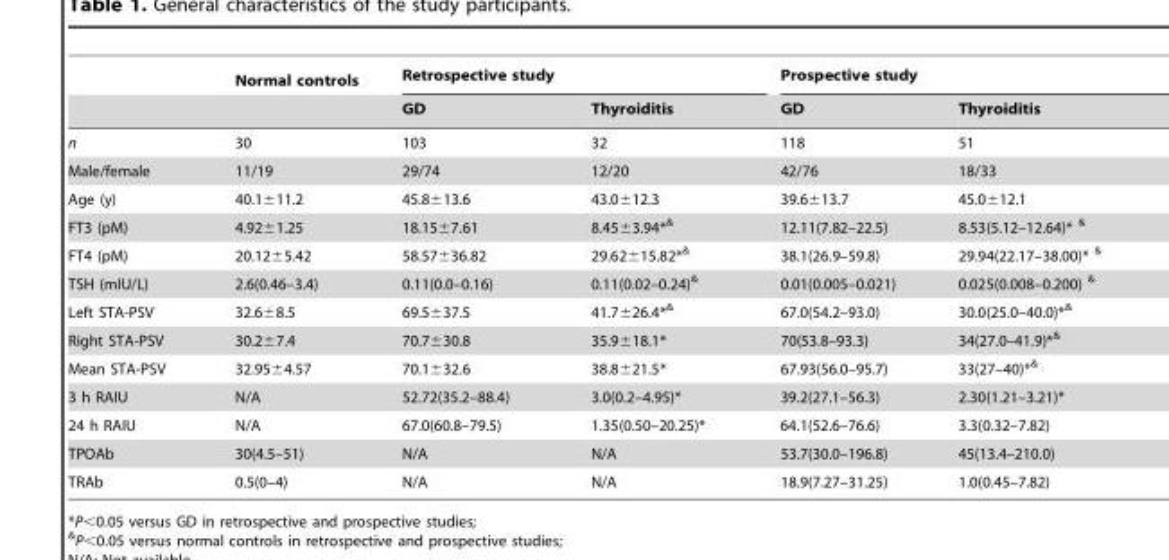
<table><thead><tr><td rowspan="2"></td><td rowspan="2">Normal controls</td><td colspan="2">Retrospective study</td><td colspan="2">Prospective study</td></tr><tr><td>GD</td><td>Thyroiditis</td><td>GD</td><td>Thyroiditis</td></tr></thead><tbody><tr><td>n</td><td>30</td><td>103</td><td>32</td><td>118</td><td>51</td></tr><tr><td>Male/female</td><td>11/19</td><td>29/74</td><td>12/20</td><td>42/76</td><td>18/33</td></tr><tr><td>Age (y)</td><td>40.1±11.2</td><td>45.8±13.6</td><td>43.0±12.3</td><td>39.6±13.7</td><td>45.0±12.1</td></tr><tr><td>FT3 (pM)</td><td>4.92±1.25</td><td>18.15±7.61</td><td>8.45±3.94*&amp;</td><td>12.11(7.82–22.5)</td><td>8.53(5.12–12.64)* &amp;</td></tr><tr><td>FT4 (pM)</td><td>20.12±5.42</td><td>58.57±36.82</td><td>29.62±15.82*&amp;</td><td>38.1(26.9–59.8)</td><td>29.94(22.17–38.00)* &amp;</td></tr><tr><td>TSH (mIU/L)</td><td>2.6(0.46–3.4)</td><td>0.11(0.0–0.16)</td><td>0.11(0.02–0.24)&amp;</td><td>0.01(0.005–0.021)</td><td>0.025(0.008–0.200) &amp;</td></tr><tr><td>Left STA-PSV</td><td>32.6±8.5</td><td>69.5±37.5</td><td>41.7±26.4*&amp;</td><td>67.0(54.2–93.0)</td><td>30.0(25.0–40.0)*&amp;</td></tr><tr><td>Right STA-PSV</td><td>30.2±7.4</td><td>70.7±30.8</td><td>35.9±18.1*</td><td>70(53.8–93.3)</td><td>34(27.0–41.9)*&amp;</td></tr><tr><td>Mean STA-PSV</td><td>32.95±4.57</td><td>70.1±32.6</td><td>38.8±21.5*</td><td>67.93(56.0–95.7)</td><td>33(27–40)*&amp;</td></tr><tr><td>3 h RAIU</td><td>N/A</td><td>52.72(35.2–88.4)</td><td>3.0(0.2–4.95)*</td><td>39.2(27.1–56.3)</td><td>2.30(1.21–3.21)*</td></tr><tr><td>24 h RAIU</td><td>N/A</td><td>67.0(60.8–79.5)</td><td>1.35(0.50–20.25)*</td><td>64.1(52.6–76.6)</td><td>3.3(0.32–7.82)</td></tr><tr><td>TPOAb</td><td>30(4.5–51)</td><td>N/A</td><td>N/A</td><td>53.7(30.0–196.8)</td><td>45(13.4–210.0)</td></tr><tr><td>TRAb</td><td>0.5(0–4)</td><td>N/A</td><td>N/A</td><td>18.9(7.27–31.25)</td><td>1.0(0.45–7.82)</td></tr></tbody></table>